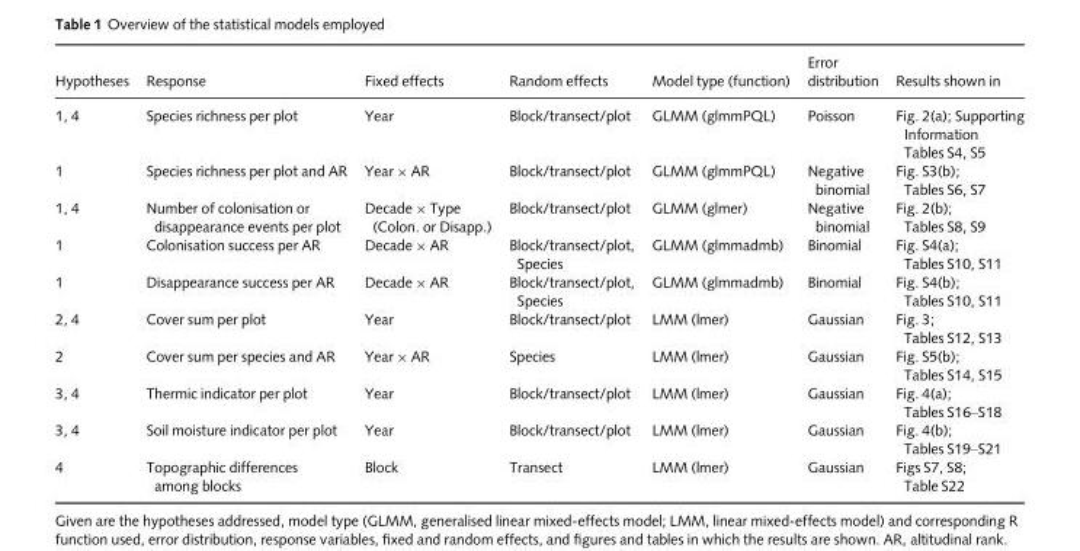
<table><thead><tr><td>Hypotheses</td><td>Response</td><td>Fixed effects</td><td>Random effects</td><td>Model type (function)</td><td>Error distribution</td><td>Results shown in</td></tr></thead><tbody><tr><td>1, 4</td><td>Species richness per plot</td><td>Year</td><td>Block/transect/plot</td><td>GLMM (glmmPQL)</td><td>Poisson</td><td>Fig. 2(a); Supporting Information Tables S4, S5</td></tr><tr><td>1</td><td>Species richness per plot and AR</td><td>Year × AR</td><td>Block/transect/plot</td><td>GLMM (glmmPQL)</td><td>Negative binomial</td><td>Fig. S3(b); Tables S6, S7</td></tr><tr><td>1, 4</td><td>Number of colonisation or disappearance events per plot</td><td>Decade × Type (Colon. or Disapp.)</td><td>Block/transect/plot</td><td>GLMM (glmer)</td><td>Negative binomial</td><td>Fig. 2(b); Tables S8, S9</td></tr><tr><td>1</td><td>Colonisation success per AR</td><td>Decade × AR</td><td>Block/transect/plot, Species</td><td>GLMM (glmmadmb)</td><td>Binomial</td><td>Fig. S4(a); Tables S10, S11</td></tr><tr><td>1</td><td>Disappearance success per AR</td><td>Decade × AR</td><td>Block/transect/plot, Species</td><td>GLMM (glmmadmb)</td><td>Binomial</td><td>Fig. S4(b); Tables S10, S11</td></tr><tr><td>2, 4</td><td>Cover sum per plot</td><td>Year</td><td>Block/transect/plot</td><td>LMM (lmer)</td><td>Gaussian</td><td>Fig. 3; Tables S12, S13</td></tr><tr><td>2</td><td>Cover sum per species and AR</td><td>Year × AR</td><td>Species</td><td>LMM (lmer)</td><td>Gaussian</td><td>Fig. S5(b); Tables S14, S15</td></tr><tr><td>3, 4</td><td>Thermic indicator per plot</td><td>Year</td><td>Block/transect/plot</td><td>LMM (lmer)</td><td>Gaussian</td><td>Fig. 4(a); Tables S16–S18</td></tr><tr><td>3, 4</td><td>Soil moisture indicator per plot</td><td>Year</td><td>Block/transect/plot</td><td>LMM (lmer)</td><td>Gaussian</td><td>Fig. 4(b); Tables S19–S21</td></tr><tr><td>4</td><td>Topographic differences among blocks</td><td>Block</td><td>Transect</td><td>LMM (lmer)</td><td>Gaussian</td><td>Figs S7, S8; Table S22</td></tr></tbody></table>